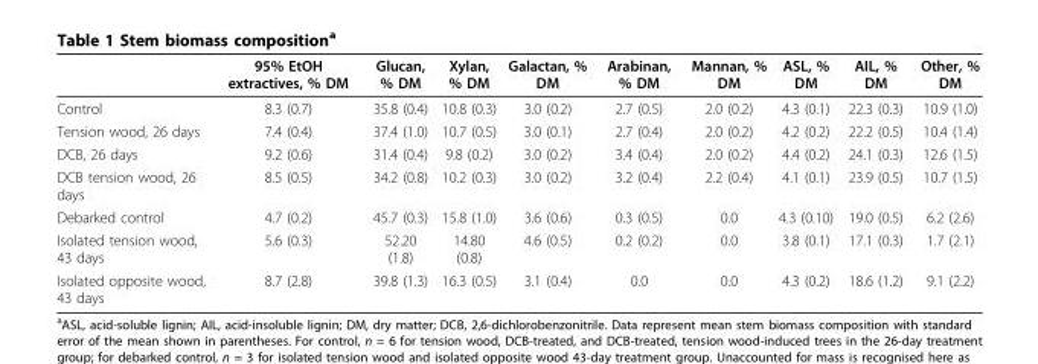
<table><thead><tr><td></td><td>95% EtOH extractives, % DM</td><td>Glucan, % DM</td><td>Xylan, % DM</td><td>Galactan, % DM</td><td>Arabinan, % DM</td><td>Mannan, % DM</td><td>ASL, % DM</td><td>AIL, % DM</td><td>Other, % DM</td></tr></thead><tbody><tr><td>Control</td><td>8.3 (0.7)</td><td>35.8 (0.4)</td><td>10.8 (0.3)</td><td>3.0 (0.2)</td><td>2.7 (0.5)</td><td>2.0 (0.2)</td><td>4.3 (0.1)</td><td>22.3 (0.3)</td><td>10.9 (1.0)</td></tr><tr><td>Tension wood, 26 days</td><td>7.4 (0.4)</td><td>37.4 (1.0)</td><td>10.7 (0.5)</td><td>3.0 (0.1)</td><td>2.7 (0.4)</td><td>2.0 (0.2)</td><td>4.2 (0.2)</td><td>22.2 (0.5)</td><td>10.4 (1.4)</td></tr><tr><td>DCB, 26 days</td><td>9.2 (0.6)</td><td>31.4 (0.4)</td><td>9.8 (0.2)</td><td>3.0 (0.2)</td><td>3.4 (0.4)</td><td>2.0 (0.2)</td><td>4.4 (0.2)</td><td>24.1 (0.3)</td><td>12.6 (1.5)</td></tr><tr><td>DCB tension wood, 26 days</td><td>8.5 (0.5)</td><td>34.2 (0.8)</td><td>10.2 (0.3)</td><td>3.0 (0.2)</td><td>3.2 (0.4)</td><td>2.2 (0.4)</td><td>4.1 (0.1)</td><td>23.9 (0.5)</td><td>10.7 (1.5)</td></tr><tr><td>Debarked control</td><td>4.7 (0.2)</td><td>45.7 (0.3)</td><td>15.8 (1.0)</td><td>3.6 (0.6)</td><td>0.3 (0.5)</td><td>0.0</td><td>4.3 (0.10)</td><td>19.0 (0.5)</td><td>6.2 (2.6)</td></tr><tr><td>Isolated tension wood, 43 days</td><td>5.6 (0.3)</td><td>52.20 (1.8)</td><td>14.80 (0.8)</td><td>4.6 (0.5)</td><td>0.2 (0.2)</td><td>0.0</td><td>3.8 (0.1)</td><td>17.1 (0.3)</td><td>1.7 (2.1)</td></tr><tr><td>Isolated opposite wood, 43 days</td><td>8.7 (2.8)</td><td>39.8 (1.3)</td><td>16.3 (0.5)</td><td>3.1 (0.4)</td><td>0.0</td><td>0.0</td><td>4.3 (0.2)</td><td>18.6 (1.2)</td><td>9.1 (2.2)</td></tr></tbody></table>